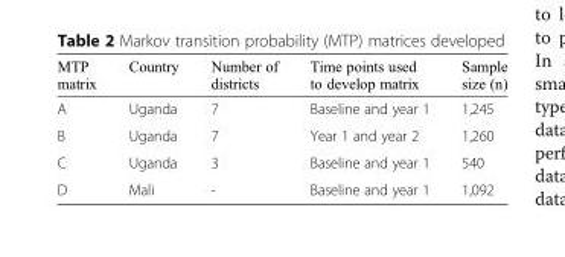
<table><thead><tr><td>MTP matrix</td><td>Country</td><td>Number of districts</td><td>Time points used to develop matrix</td><td>Sample size (n)</td></tr></thead><tbody><tr><td>A</td><td>Uganda</td><td>7</td><td>Baseline and year 1</td><td>1,245</td></tr><tr><td>B</td><td>Uganda</td><td>7</td><td>Year 1 and year 2</td><td>1,260</td></tr><tr><td>C</td><td>Uganda</td><td>3</td><td>Baseline and year 1</td><td>540</td></tr><tr><td>D</td><td>Mali</td><td>-</td><td>Baseline and year 1</td><td>1,092</td></tr></tbody></table>